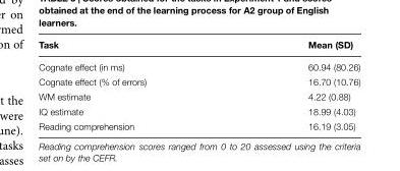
<table><thead><tr><td>Task</td><td>Mean (SD)</td></tr></thead><tbody><tr><td>Cognate effect (in ms)</td><td>60.94 (80.26)</td></tr><tr><td>Cognate effect (% of errors)</td><td>16.70 (10.76)</td></tr><tr><td>WM estimate</td><td>4.22 (0.88)</td></tr><tr><td>IQ estimate</td><td>18.99 (4.03)</td></tr><tr><td>Reading comprehension</td><td>16.19 (3.05)</td></tr></tbody></table>